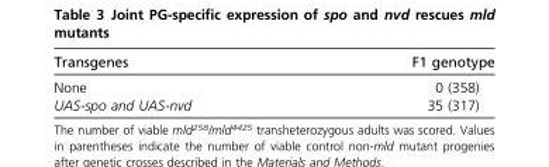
<table><thead><tr><td>Transgenes</td><td>F1 genotype</td></tr></thead><tbody><tr><td>None</td><td>0 (358)</td></tr><tr><td>UAS-spo and UAS-nvd</td><td>35 (317)</td></tr></tbody></table>